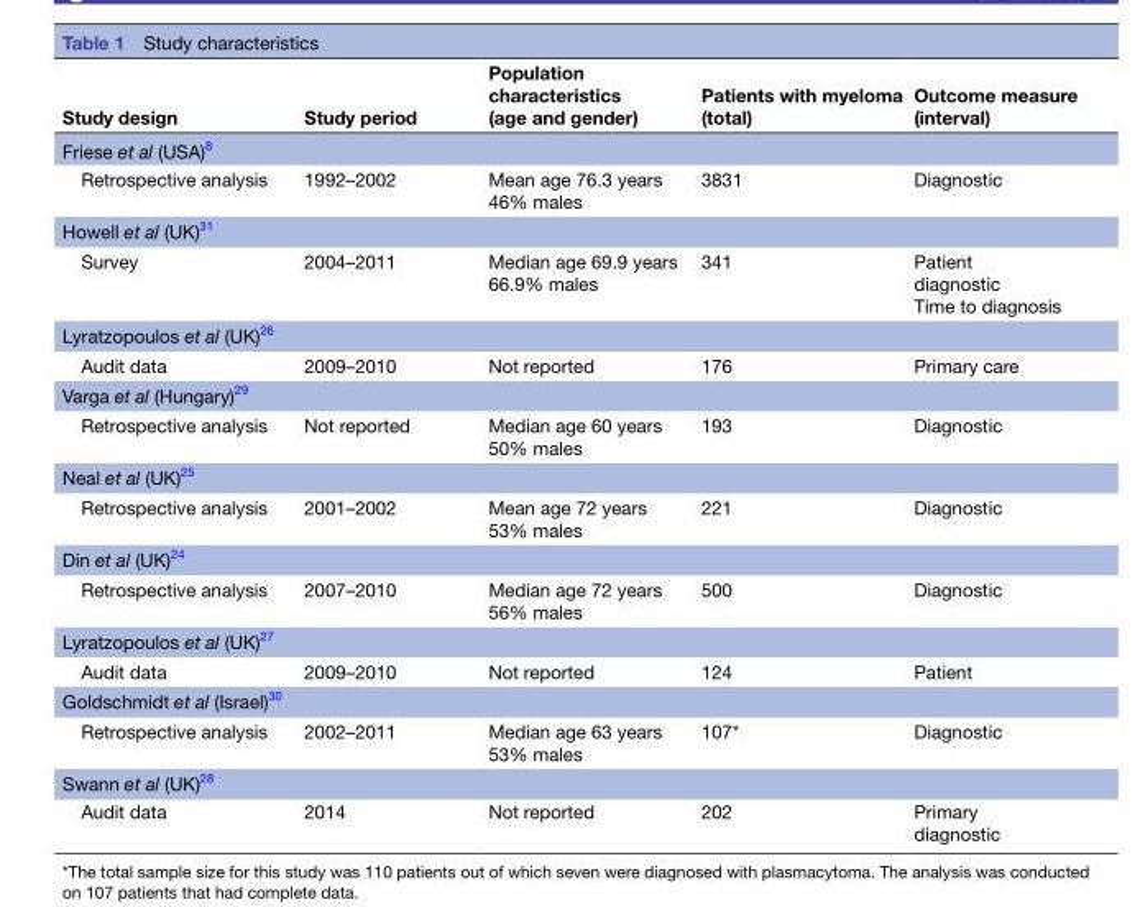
<table><thead><tr><td>Study design</td><td>Study period</td><td>Population characteristics (age and gender)</td><td>Patients with myeloma (total)</td><td>Outcome measure (interval)</td></tr></thead><tbody><tr><td colspan="5">Friese et al (USA)<sup>8</sup></td></tr><tr><td>Retrospective analysis</td><td>1992–2002</td><td>Mean age 76.3 years 46% males</td><td>3831</td><td>Diagnostic</td></tr><tr><td colspan="5">Howell et al (UK)<sup>31</sup></td></tr><tr><td>Survey</td><td>2004–2011</td><td>Median age 69.9 years 66.9% males</td><td>341</td><td>Patient diagnostic Time to diagnosis</td></tr><tr><td colspan="5">Lyratzopoulos et al (UK)<sup>26</sup></td></tr><tr><td>Audit data</td><td>2009–2010</td><td>Not reported</td><td>176</td><td>Primary care</td></tr><tr><td colspan="5">Varga et al (Hungary)<sup>29</sup></td></tr><tr><td>Retrospective analysis</td><td>Not reported</td><td>Median age 60 years 50% males</td><td>193</td><td>Diagnostic</td></tr><tr><td colspan="5">Neal et al (UK)<sup>25</sup></td></tr><tr><td>Retrospective analysis</td><td>2001–2002</td><td>Mean age 72 years 53% males</td><td>221</td><td>Diagnostic</td></tr><tr><td colspan="5">Din et al (UK)<sup>24</sup></td></tr><tr><td>Retrospective analysis</td><td>2007–2010</td><td>Median age 72 years 56% males</td><td>500</td><td>Diagnostic</td></tr><tr><td colspan="5">Lyratzopoulos et al (UK)<sup>27</sup></td></tr><tr><td>Audit data</td><td>2009–2010</td><td>Not reported</td><td>124</td><td>Patient</td></tr><tr><td colspan="5">Goldschmidt et al (Israel)<sup>30</sup></td></tr><tr><td>Retrospective analysis</td><td>2002–2011</td><td>Median age 63 years 53% males</td><td>107*</td><td>Diagnostic</td></tr><tr><td colspan="5">Swann et al (UK)<sup>28</sup></td></tr><tr><td>Audit data</td><td>2014</td><td>Not reported</td><td>202</td><td>Primary diagnostic</td></tr></tbody></table>